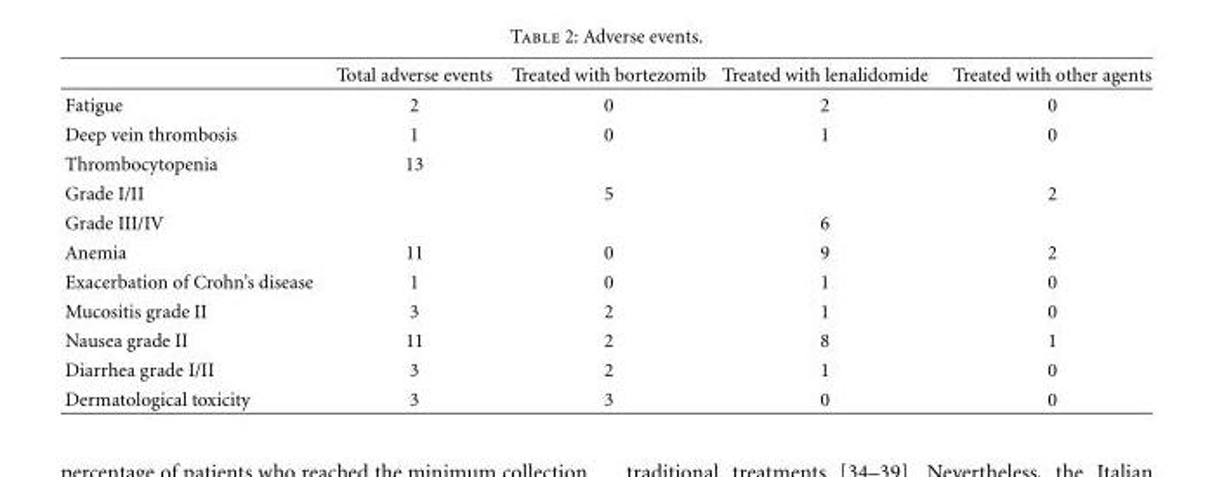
<table><thead><tr><td></td><td>Total adverse events</td><td>Treated with bortezomib</td><td>Treated with lenalidomide</td><td>Treated with other agents</td></tr></thead><tbody><tr><td>Fatigue</td><td>2</td><td>0</td><td>2</td><td>0</td></tr><tr><td>Deep vein thrombosis</td><td>1</td><td>0</td><td>1</td><td>0</td></tr><tr><td>Thrombocytopenia</td><td>13</td><td></td><td></td><td></td></tr><tr><td>Grade I/II</td><td></td><td>5</td><td></td><td>2</td></tr><tr><td>Grade III/IV</td><td></td><td></td><td>6</td><td></td></tr><tr><td>Anemia</td><td>11</td><td>0</td><td>9</td><td>2</td></tr><tr><td>Exacerbation of Crohn’s disease</td><td>1</td><td>0</td><td>1</td><td>0</td></tr><tr><td>Mucositis grade II</td><td>3</td><td>2</td><td>1</td><td>0</td></tr><tr><td>Nausea grade II</td><td>11</td><td>2</td><td>8</td><td>1</td></tr><tr><td>Diarrhea grade I/II</td><td>3</td><td>2</td><td>1</td><td>0</td></tr><tr><td>Dermatological toxicity</td><td>3</td><td>3</td><td>0</td><td>0</td></tr></tbody></table>